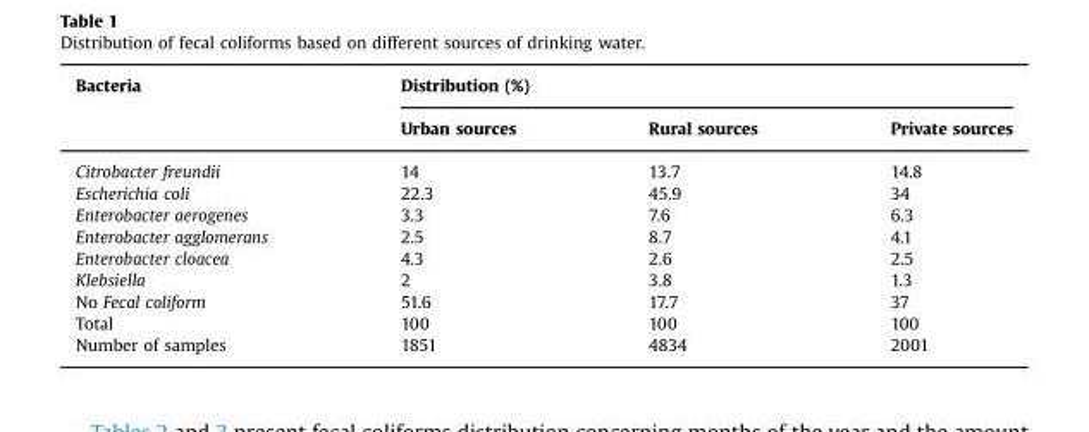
<table><thead><tr><td rowspan="2">Bacteria</td><td colspan="3">Distribution (%)</td></tr><tr><td>Urban sources</td><td>Rural sources</td><td>Private sources</td></tr></thead><tbody><tr><td>Citrobacter freundii</td><td>14</td><td>13.7</td><td>14.8</td></tr><tr><td>Escherichia coli</td><td>22.3</td><td>45.9</td><td>34</td></tr><tr><td>Enterobacter aerogenes</td><td>3.3</td><td>7.6</td><td>6.3</td></tr><tr><td>Enterobacter agglomerans</td><td>2.5</td><td>8.7</td><td>4.1</td></tr><tr><td>Enterobacter cloacea</td><td>4.3</td><td>2.6</td><td>2.5</td></tr><tr><td>Klebsiella</td><td>2</td><td>3.8</td><td>1.3</td></tr><tr><td>No Fecal coliform</td><td>51.6</td><td>17.7</td><td>37</td></tr><tr><td>Total</td><td>100</td><td>100</td><td>100</td></tr><tr><td>Number of samples</td><td>1851</td><td>4834</td><td>2001</td></tr></tbody></table>